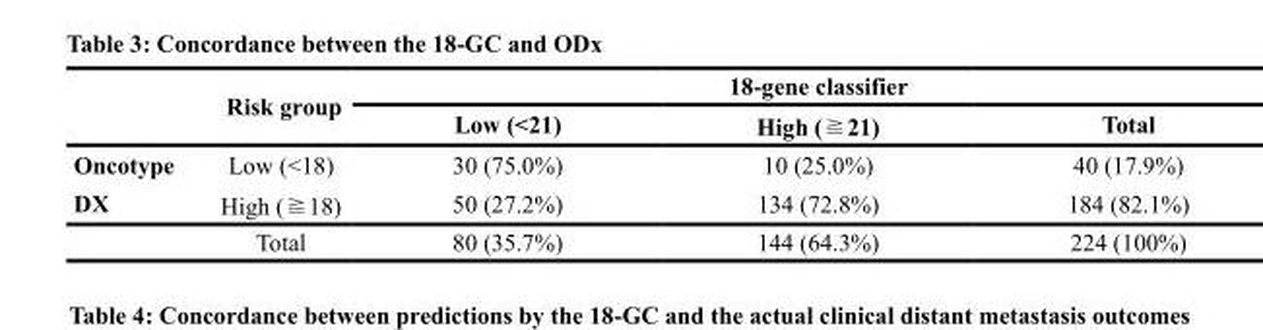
<table><thead><tr><td rowspan="2"></td><td rowspan="2">Risk group</td><td colspan="3">18-gene classifier</td></tr><tr><td>Low (&lt;21)</td><td>High (≧21)</td><td>Total</td></tr></thead><tbody><tr><td>Oncotype</td><td>Low (&lt;18)</td><td>30 (75.0%)</td><td>10 (25.0%)</td><td>40 (17.9%)</td></tr><tr><td rowspan="2">DX</td><td>High (≧18)</td><td>50 (27.2%)</td><td>134 (72.8%)</td><td>184 (82.1%)</td></tr><tr><td>Total</td><td>80 (35.7%)</td><td>144 (64.3%)</td><td>224 (100%)</td></tr></tbody></table>